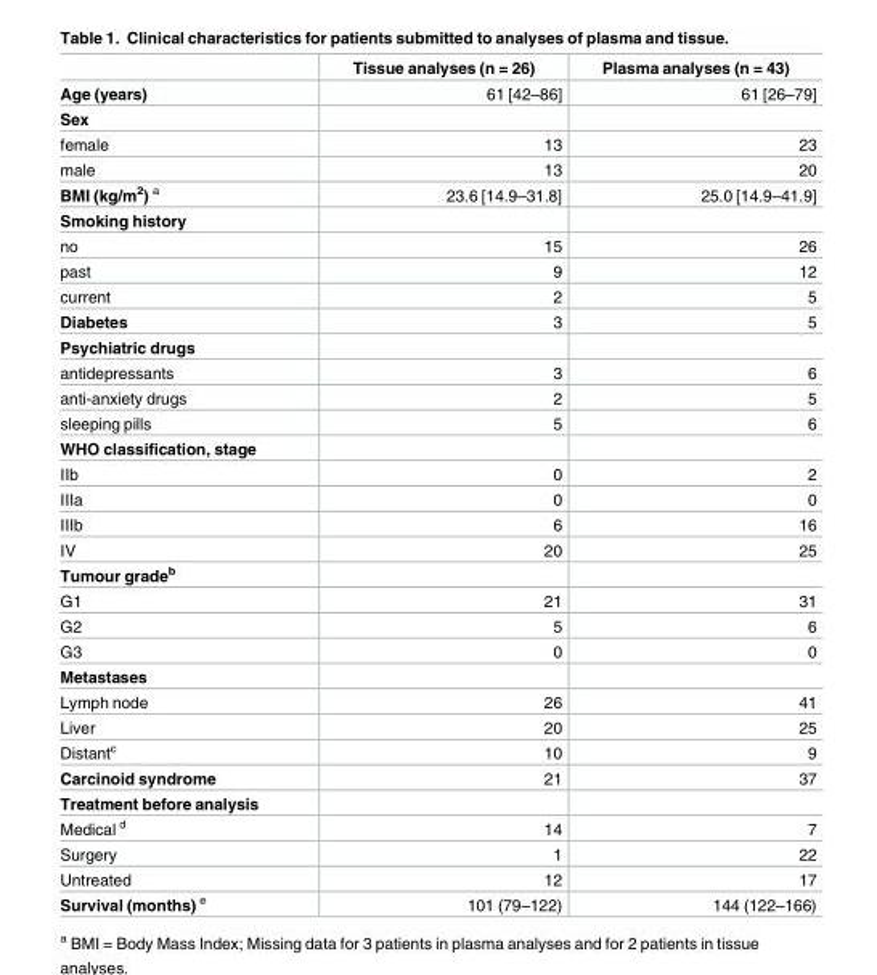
<table><thead><tr><td></td><td>Tissue analyses (n = 26)</td><td>Plasma analyses (n = 43)</td></tr></thead><tbody><tr><td>Age (years)</td><td>61 [42–86]</td><td>61 [26–79]</td></tr><tr><td colspan="3">Sex</td></tr><tr><td>female</td><td>13</td><td>23</td></tr><tr><td>male</td><td>13</td><td>20</td></tr><tr><td>BMI (kg/m<sup>2</sup>) <sup>a</sup></td><td>23.6 [14.9–31.8]</td><td>25.0 [14.9–41.9]</td></tr><tr><td colspan="3">Smoking history</td></tr><tr><td>no</td><td>15</td><td>26</td></tr><tr><td>past</td><td>9</td><td>12</td></tr><tr><td>current</td><td>2</td><td>5</td></tr><tr><td>Diabetes</td><td>3</td><td>5</td></tr><tr><td colspan="3">Psychiatric drugs</td></tr><tr><td>antidepressants</td><td>3</td><td>6</td></tr><tr><td>anti-anxiety drugs</td><td>2</td><td>5</td></tr><tr><td>sleeping pills</td><td>5</td><td>6</td></tr><tr><td colspan="3">WHO classification, stage</td></tr><tr><td>IIb</td><td>0</td><td>2</td></tr><tr><td>IIIa</td><td>0</td><td>0</td></tr><tr><td>IIIb</td><td>6</td><td>16</td></tr><tr><td>IV</td><td>20</td><td>25</td></tr><tr><td colspan="3">Tumour grade<sup>b</sup></td></tr><tr><td>G1</td><td>21</td><td>31</td></tr><tr><td>G2</td><td>5</td><td>6</td></tr><tr><td>G3</td><td>0</td><td>0</td></tr><tr><td colspan="3">Metastases</td></tr><tr><td>Lymph node</td><td>26</td><td>41</td></tr><tr><td>Liver</td><td>20</td><td>25</td></tr><tr><td>Distant<sup>c</sup></td><td>10</td><td>9</td></tr><tr><td>Carcinoid syndrome</td><td>21</td><td>37</td></tr><tr><td colspan="3">Treatment before analysis</td></tr><tr><td>Medical <sup>d</sup></td><td>14</td><td>7</td></tr><tr><td>Surgery</td><td>1</td><td>22</td></tr><tr><td>Untreated</td><td>12</td><td>17</td></tr><tr><td>Survival (months) <sup>e</sup></td><td>101 (79–122)</td><td>144 (122–166)</td></tr></tbody></table>